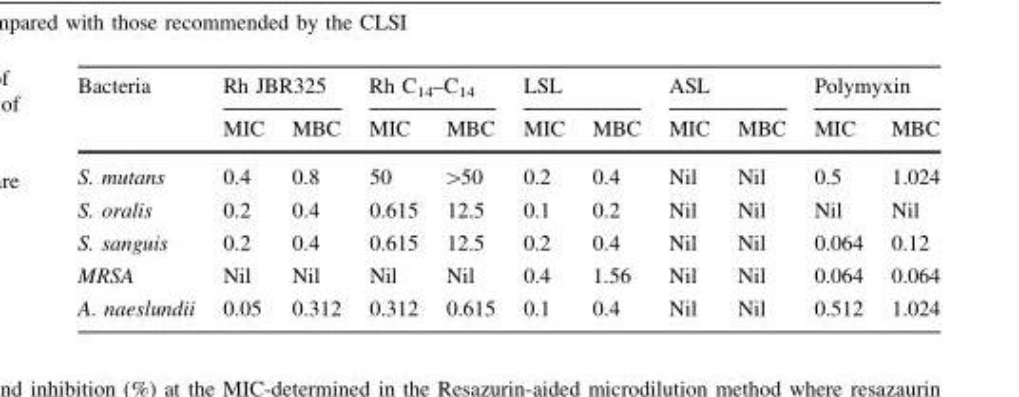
<table><thead><tr><td rowspan="2">Bacteria</td><td colspan="2">Rh JBR325</td><td colspan="2">Rh C<sub>14</sub>–C<sub>14</sub></td><td colspan="2">LSL</td><td colspan="2">ASL</td><td colspan="2">Polymyxin</td></tr><tr><td>MIC</td><td>MBC</td><td>MIC</td><td>MBC</td><td>MIC</td><td>MBC</td><td>MIC</td><td>MBC</td><td>MIC</td><td>MBC</td></tr></thead><tbody><tr><td>S. mutans</td><td>0.4</td><td>0.8</td><td>50</td><td>&gt;50</td><td>0.2</td><td>0.4</td><td>Nil</td><td>Nil</td><td>0.5</td><td>1.024</td></tr><tr><td>S. oralis</td><td>0.2</td><td>0.4</td><td>0.615</td><td>12.5</td><td>0.1</td><td>0.2</td><td>Nil</td><td>Nil</td><td>Nil</td><td>Nil</td></tr><tr><td>S. sanguis</td><td>0.2</td><td>0.4</td><td>0.615</td><td>12.5</td><td>0.2</td><td>0.4</td><td>Nil</td><td>Nil</td><td>0.064</td><td>0.12</td></tr><tr><td>MRSA</td><td>Nil</td><td>Nil</td><td>Nil</td><td>Nil</td><td>0.4</td><td>1.56</td><td>Nil</td><td>Nil</td><td>0.064</td><td>0.064</td></tr><tr><td>A. naeslundii</td><td>0.05</td><td>0.312</td><td>0.312</td><td>0.615</td><td>0.1</td><td>0.4</td><td>Nil</td><td>Nil</td><td>0.512</td><td>1.024</td></tr></tbody></table>